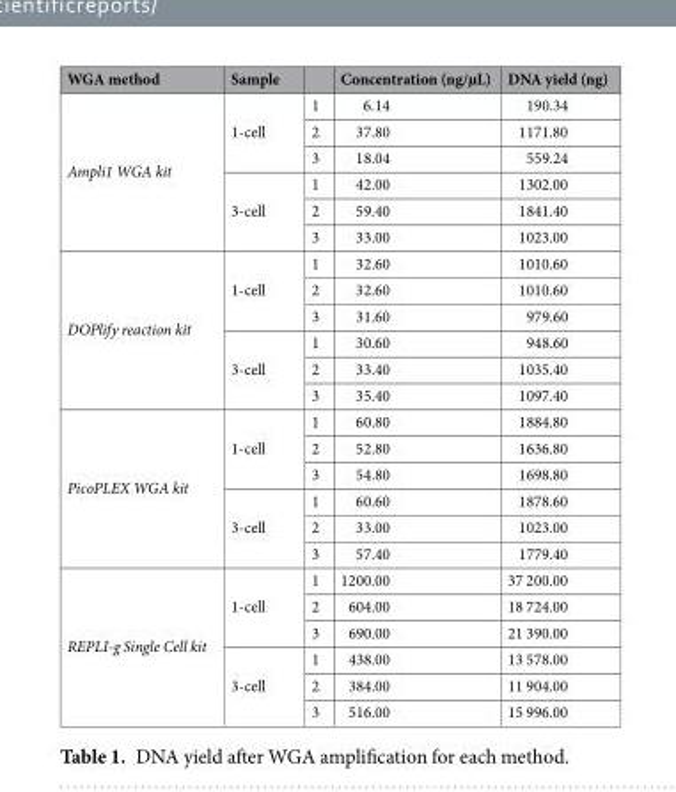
<table><thead><tr><td>WGA method</td><td>Sample</td><td></td><td>Concentration (ng/µL)</td><td>DNA yield (ng)</td></tr></thead><tbody><tr><td rowspan="6">Ampli1 WGA kit</td><td rowspan="3">1-cell</td><td>1</td><td>6.14</td><td>190.34</td></tr><tr><td>2</td><td>37.80</td><td>1171.80</td></tr><tr><td>3</td><td>18.04</td><td>559.24</td></tr><tr><td rowspan="3">3-cell</td><td>1</td><td>42.00</td><td>1302.00</td></tr><tr><td>2</td><td>59.40</td><td>1841.40</td></tr><tr><td>3</td><td>33.00</td><td>1023.00</td></tr><tr><td rowspan="6">DOPlify reaction kit</td><td rowspan="3">1-cell</td><td>1</td><td>32.60</td><td>1010.60</td></tr><tr><td>2</td><td>32.60</td><td>1010.60</td></tr><tr><td>3</td><td>31.60</td><td>979.60</td></tr><tr><td rowspan="3">3-cell</td><td>1</td><td>30.60</td><td>948.60</td></tr><tr><td>2</td><td>33.40</td><td>1035.40</td></tr><tr><td>3</td><td>35.40</td><td>1097.40</td></tr><tr><td rowspan="6">PicoPLEX WGA kit</td><td rowspan="3">1-cell</td><td>1</td><td>60.80</td><td>1884.80</td></tr><tr><td>2</td><td>52.80</td><td>1636.80</td></tr><tr><td>3</td><td>54.80</td><td>1698.80</td></tr><tr><td rowspan="3">3-cell</td><td>1</td><td>60.60</td><td>1878.60</td></tr><tr><td>2</td><td>33.00</td><td>1023.00</td></tr><tr><td>3</td><td>57.40</td><td>1779.40</td></tr><tr><td rowspan="6">REPLI-g Single Cell kit</td><td rowspan="3">1-cell</td><td>1</td><td>1200.00</td><td>37 200.00</td></tr><tr><td>2</td><td>604.00</td><td>18 724.00</td></tr><tr><td>3</td><td>690.00</td><td>21 390.00</td></tr><tr><td rowspan="3">3-cell</td><td>1</td><td>438.00</td><td>13 578.00</td></tr><tr><td>2</td><td>384.00</td><td>11 904.00</td></tr><tr><td>3</td><td>516.00</td><td>15 996.00</td></tr></tbody></table>